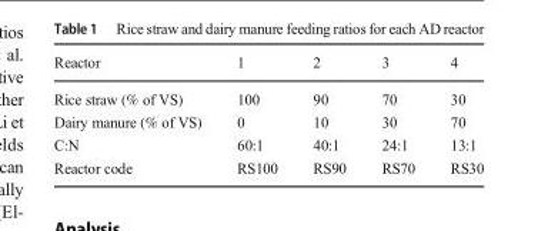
<table><thead><tr><td>Reactor</td><td>1</td><td>2</td><td>3</td><td>4</td></tr></thead><tbody><tr><td>Rice straw (% of VS)</td><td>100</td><td>90</td><td>70</td><td>30</td></tr><tr><td>Dairy manure (% of VS)</td><td>0</td><td>10</td><td>30</td><td>70</td></tr><tr><td>C:N</td><td>60:1</td><td>40:1</td><td>24:1</td><td>13:1</td></tr><tr><td>Reactor code</td><td>RS100</td><td>RS90</td><td>RS70</td><td>RS30</td></tr></tbody></table>